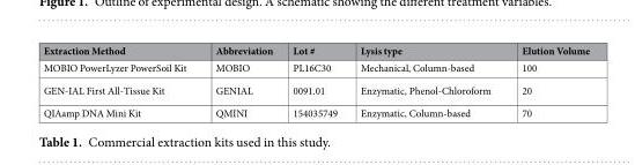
<table><thead><tr><td>Extraction Method</td><td>Abbreviation</td><td>Lot #</td><td>Lysis type</td><td>Elution Volume</td></tr></thead><tbody><tr><td>MOBIO PowerLyzer PowerSoil Kit</td><td>MOBIO</td><td>PL16C30</td><td>Mechanical, Column-based</td><td>100</td></tr><tr><td>GEN-IAL First All-Tissue Kit</td><td>GENIAL</td><td>0091.01</td><td>Enzymatic, Phenol-Chloroform</td><td>20</td></tr><tr><td>QIAamp DNA Mini Kit</td><td>QMINI</td><td>154035749</td><td>Enzymatic, Column-based</td><td>70</td></tr></tbody></table>